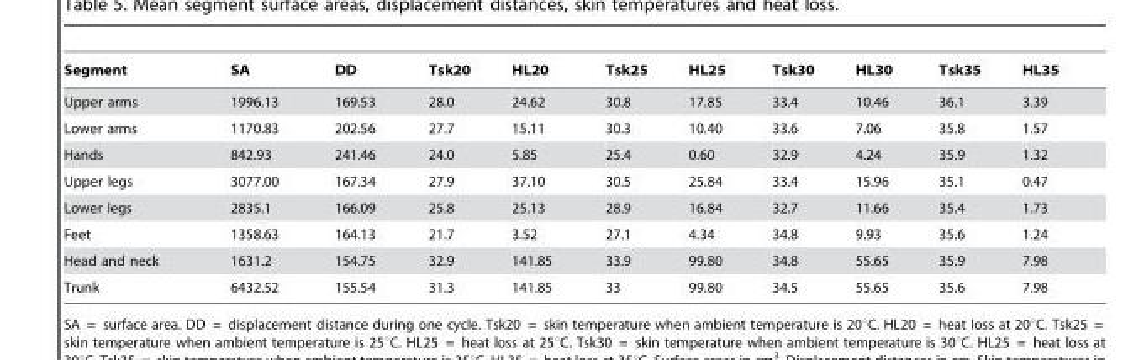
<table><thead><tr><td>Segment</td><td>SA</td><td>DD</td><td>Tsk20</td><td>HL20</td><td>Tsk25</td><td>HL25</td><td>Tsk30</td><td>HL30</td><td>Tsk35</td><td>HL35</td></tr></thead><tbody><tr><td>Upper arms</td><td>1996.13</td><td>169.53</td><td>28.0</td><td>24.62</td><td>30.8</td><td>17.85</td><td>33.4</td><td>10.46</td><td>36.1</td><td>3.39</td></tr><tr><td>Lower arms</td><td>1170.83</td><td>202.56</td><td>27.7</td><td>15.11</td><td>30.3</td><td>10.40</td><td>33.6</td><td>7.06</td><td>35.8</td><td>1.57</td></tr><tr><td>Hands</td><td>842.93</td><td>241.46</td><td>24.0</td><td>5.85</td><td>25.4</td><td>0.60</td><td>32.9</td><td>4.24</td><td>35.9</td><td>1.32</td></tr><tr><td>Upper legs</td><td>3077.00</td><td>167.34</td><td>27.9</td><td>37.10</td><td>30.5</td><td>25.84</td><td>33.4</td><td>15.96</td><td>35.1</td><td>0.47</td></tr><tr><td>Lower legs</td><td>2835.1</td><td>166.09</td><td>25.8</td><td>25.13</td><td>28.9</td><td>16.84</td><td>32.7</td><td>11.66</td><td>35.4</td><td>1.73</td></tr><tr><td>Feet</td><td>1358.63</td><td>164.13</td><td>21.7</td><td>3.52</td><td>27.1</td><td>4.34</td><td>34.8</td><td>9.93</td><td>35.6</td><td>1.24</td></tr><tr><td>Head and neck</td><td>1631.2</td><td>154.75</td><td>32.9</td><td>141.85</td><td>33.9</td><td>99.80</td><td>34.8</td><td>55.65</td><td>35.9</td><td>7.98</td></tr><tr><td>Trunk</td><td>6432.52</td><td>155.54</td><td>31.3</td><td>141.85</td><td>33</td><td>99.80</td><td>34.5</td><td>55.65</td><td>35.6</td><td>7.98</td></tr></tbody></table>